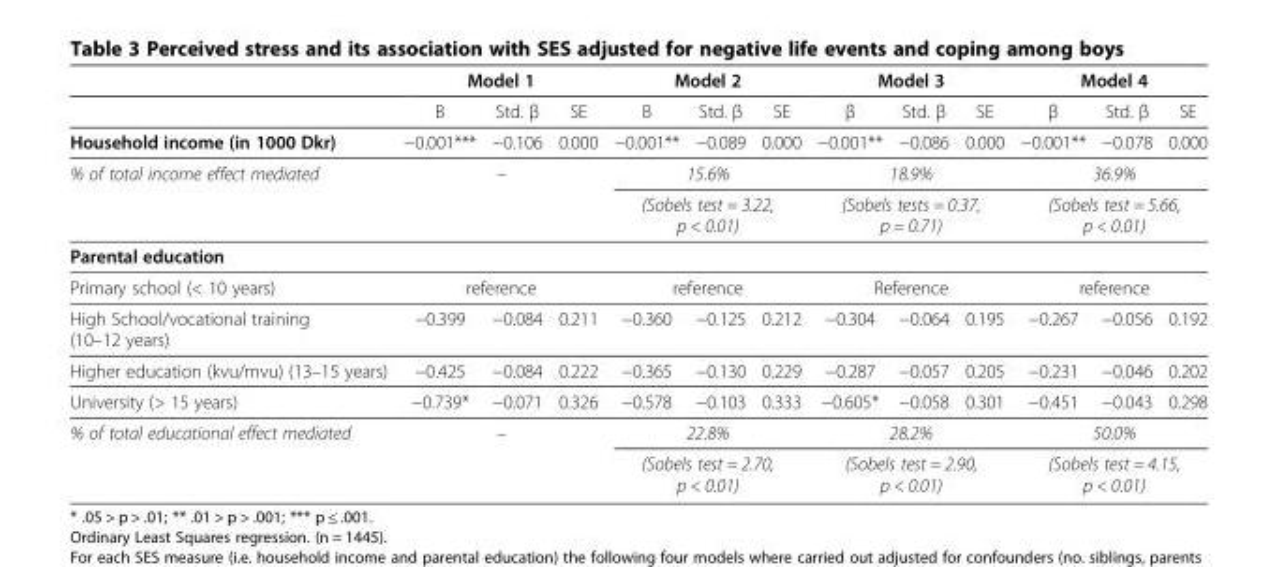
<table><thead><tr><td rowspan="2"></td><td colspan="3">Model 1</td><td colspan="3">Model 2</td><td colspan="3">Model 3</td><td colspan="3">Model 4</td></tr><tr><td>Β</td><td>Std. β</td><td>SE</td><td>Β</td><td>Std. β</td><td>SE</td><td>β</td><td>Std. β</td><td>SE</td><td>β</td><td>Std. β</td><td>SE</td></tr></thead><tbody><tr><td>Household income (in 1000 Dkr)</td><td>−0.001***</td><td>−0.106</td><td>0.000</td><td>−0.001**</td><td>−0.089</td><td>0.000</td><td>−0.001**</td><td>−0.086</td><td>0.000</td><td>−0.001**</td><td>−0.078</td><td>0.000</td></tr><tr><td rowspan="2">% of total income effect mediated</td><td rowspan="2" colspan="3">–</td><td colspan="3">15.6%</td><td colspan="3">18.9%</td><td colspan="3">36.9%</td></tr><tr><td colspan="3">(Sobels test = 3.22, p &lt; 0.01)</td><td colspan="3">(Sobels tests = 0.37, p = 0.71)</td><td colspan="3">(Sobels test = 5.66, p &lt; 0.01)</td></tr><tr><td colspan="13">Parental education</td></tr><tr><td>Primary school (&lt; 10 years)</td><td colspan="3">reference</td><td colspan="3">reference</td><td colspan="3">Reference</td><td colspan="3">reference</td></tr><tr><td>High School/vocational training (10–12 years)</td><td>−0.399</td><td>−0.084</td><td>0.211</td><td>−0.360</td><td>−0.125</td><td>0.212</td><td>−0.304</td><td>−0.064</td><td>0.195</td><td>−0.267</td><td>−0.056</td><td>0.192</td></tr><tr><td>Higher education (kvu/mvu) (13–15 years)</td><td>−0.425</td><td>−0.084</td><td>0.222</td><td>−0.365</td><td>−0.130</td><td>0.229</td><td>−0.287</td><td>−0.057</td><td>0.205</td><td>−0.231</td><td>−0.046</td><td>0.202</td></tr><tr><td>University (&gt; 15 years)</td><td>−0.739*</td><td>−0.071</td><td>0.326</td><td>−0.578</td><td>−0.103</td><td>0.333</td><td>−0.605*</td><td>−0.058</td><td>0.301</td><td>−0.451</td><td>−0.043</td><td>0.298</td></tr><tr><td rowspan="2">% of total educational effect mediated</td><td rowspan="2" colspan="3">–</td><td colspan="3">22.8%</td><td colspan="3">28.2%</td><td colspan="3">50.0%</td></tr><tr><td colspan="3">(Sobels test = 2.70, p &lt; 0.01)</td><td colspan="3">(Sobels test = 2.90, p &lt; 0.01)</td><td colspan="3">(Sobels test = 4.15, p &lt; 0.01)</td></tr></tbody></table>